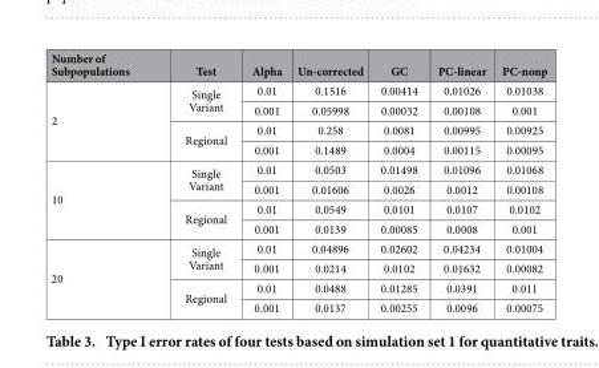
<table><thead><tr><td>Number of Subpopulations</td><td>Test</td><td>Alpha</td><td>Un-corrected</td><td>GC</td><td>PC-linear</td><td>PC-nonp</td></tr></thead><tbody><tr><td rowspan="4">2</td><td rowspan="2">Single Variant</td><td>0.01</td><td>0.1516</td><td>0.00414</td><td>0.01026</td><td>0.01038</td></tr><tr><td>0.001</td><td>0.05998</td><td>0.00032</td><td>0.00108</td><td>0.001</td></tr><tr><td rowspan="2">Regional</td><td>0.01</td><td>0.258</td><td>0.0081</td><td>0.00995</td><td>0.00925</td></tr><tr><td>0.001</td><td>0.1489</td><td>0.0004</td><td>0.00115</td><td>0.00095</td></tr><tr><td rowspan="4">10</td><td rowspan="2">Single Variant</td><td>0.01</td><td>0.0503</td><td>0.01498</td><td>0.01096</td><td>0.01068</td></tr><tr><td>0.001</td><td>0.01606</td><td>0.0026</td><td>0.0012</td><td>0.00108</td></tr><tr><td rowspan="2">Regional</td><td>0.01</td><td>0.0549</td><td>0.0101</td><td>0.0107</td><td>0.0102</td></tr><tr><td>0.001</td><td>0.0139</td><td>0.00085</td><td>0.0008</td><td>0.001</td></tr><tr><td rowspan="4">20</td><td rowspan="2">Single Variant</td><td>0.01</td><td>0.04896</td><td>0.02602</td><td>0.04234</td><td>0.01004</td></tr><tr><td>0.001</td><td>0.0214</td><td>0.0102</td><td>0.01632</td><td>0.00082</td></tr><tr><td rowspan="2">Regional</td><td>0.01</td><td>0.0488</td><td>0.01285</td><td>0.0391</td><td>0.011</td></tr><tr><td>0.001</td><td>0.0137</td><td>0.00255</td><td>0.0096</td><td>0.00075</td></tr></tbody></table>